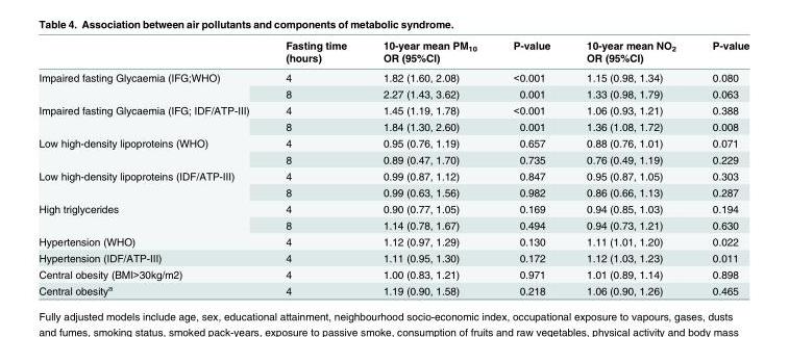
<table><thead><tr><td></td><td>Fasting time (hours)</td><td>10-year mean PM<sub>10</sub> OR (95%CI)</td><td>P-value</td><td>10-year mean NO<sub>2</sub> OR (95%CI)</td><td>P-value</td></tr></thead><tbody><tr><td rowspan="2">Impaired fasting Glycaemia (IFG;WHO)</td><td>4</td><td>1.82 (1.60, 2.08)</td><td>&lt;0.001</td><td>1.15 (0.98, 1.34)</td><td>0.080</td></tr><tr><td>8</td><td>2.27 (1.43, 3.62)</td><td>0.001</td><td>1.33 (0.98, 1.79)</td><td>0.063</td></tr><tr><td rowspan="2">Impaired fasting Glycaemia (IFG; IDF/ATP-III)</td><td>4</td><td>1.45 (1.19, 1.78)</td><td>&lt;0.001</td><td>1.06 (0.93, 1.21)</td><td>0.388</td></tr><tr><td>8</td><td>1.84 (1.30, 2.60)</td><td>0.001</td><td>1.36 (1.08, 1.72)</td><td>0.008</td></tr><tr><td rowspan="2">Low high-density lipoproteins (WHO)</td><td>4</td><td>0.95 (0.76, 1.19)</td><td>0.657</td><td>0.88 (0.76, 1.01)</td><td>0.071</td></tr><tr><td>8</td><td>0.89 (0.47, 1.70)</td><td>0.735</td><td>0.76 (0.49, 1.19)</td><td>0.229</td></tr><tr><td rowspan="2">Low high-density lipoproteins (IDF/ATP-III)</td><td>4</td><td>0.99 (0.87, 1.12)</td><td>0.847</td><td>0.95 (0.87, 1.05)</td><td>0.303</td></tr><tr><td>8</td><td>0.99 (0.63, 1.56)</td><td>0.982</td><td>0.86 (0.66, 1.13)</td><td>0.287</td></tr><tr><td rowspan="2">High triglycerides</td><td>4</td><td>0.90 (0.77, 1.05)</td><td>0.169</td><td>0.94 (0.85, 1.03)</td><td>0.194</td></tr><tr><td>8</td><td>1.14 (0.78, 1.67)</td><td>0.494</td><td>0.94 (0.73, 1.21)</td><td>0.630</td></tr><tr><td>Hypertension (WHO)</td><td>4</td><td>1.12 (0.97, 1.29)</td><td>0.130</td><td>1.11 (1.01, 1.20)</td><td>0.022</td></tr><tr><td>Hypertension (IDF/ATP-III)</td><td>4</td><td>1.11 (0.95, 1.30)</td><td>0.172</td><td>1.12 (1.03, 1.23)</td><td>0.011</td></tr><tr><td>Central obesity (BMI&gt;30kg/m2)</td><td>4</td><td>1.00 (0.83, 1.21)</td><td>0.971</td><td>1.01 (0.89, 1.14)</td><td>0.898</td></tr><tr><td>Central obesity<sup>a</sup></td><td>4</td><td>1.19 (0.90, 1.58)</td><td>0.218</td><td>1.06 (0.90, 1.26)</td><td>0.465</td></tr></tbody></table>